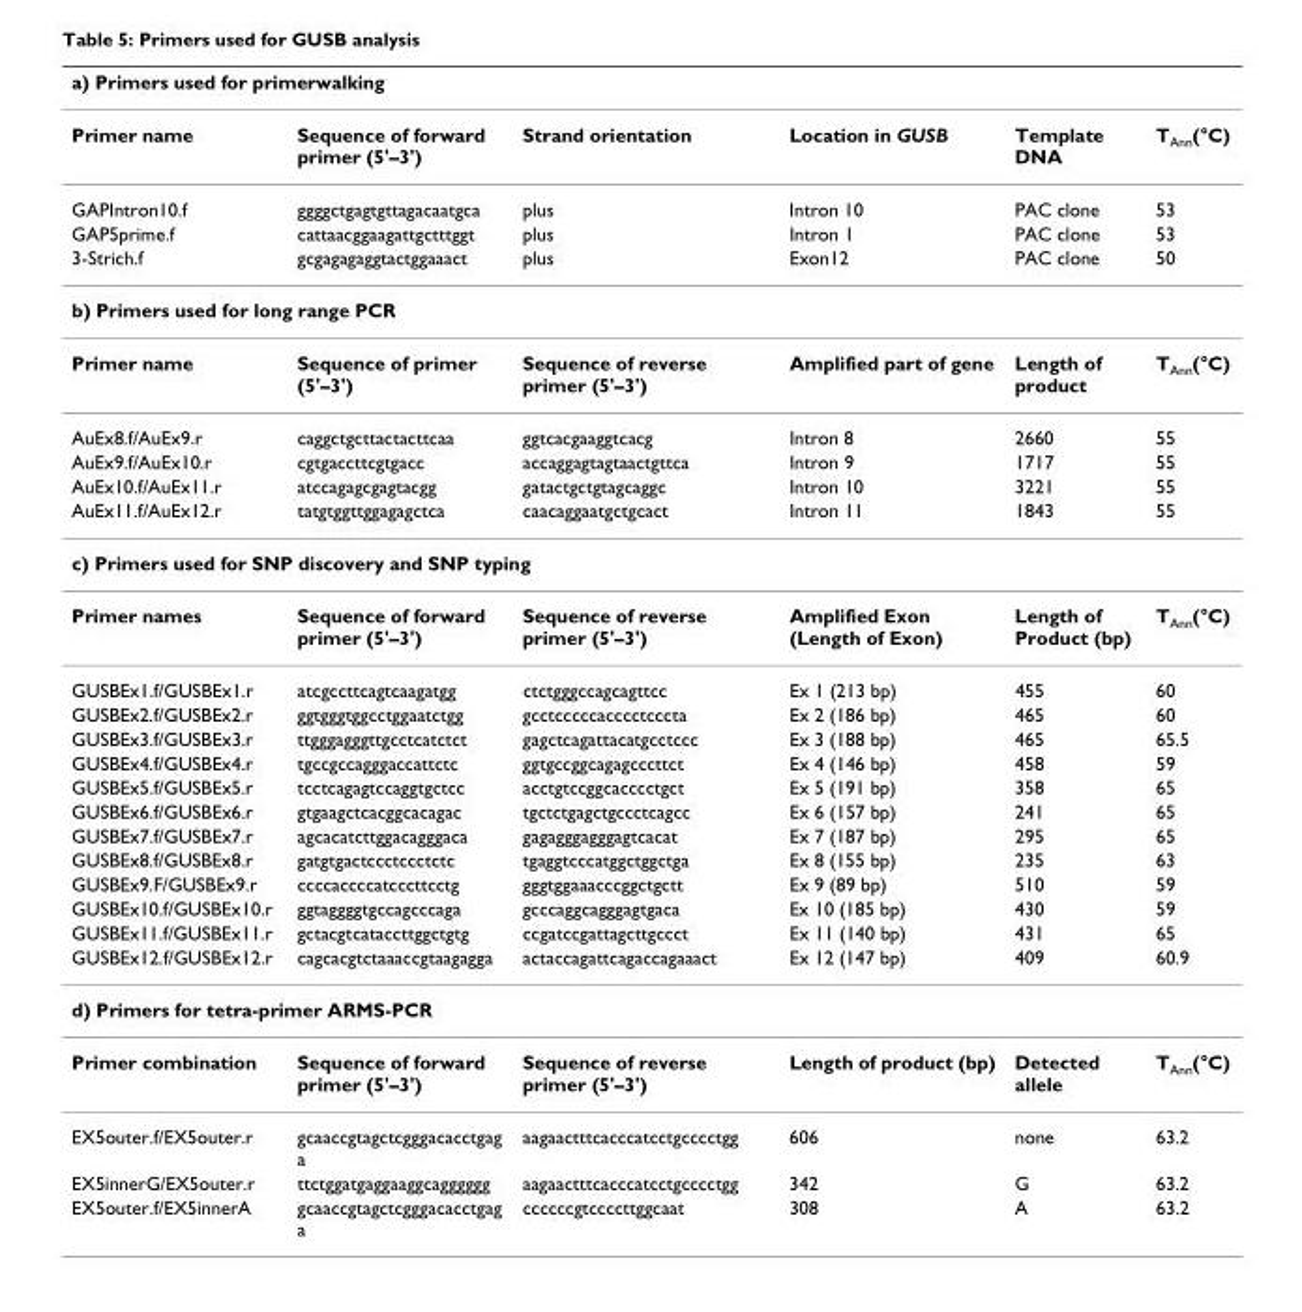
<table><thead><tr><td colspan="6">a) Primers used for primerwalking</td></tr><tr><td>Primer name</td><td>Sequence of forward primer (5&#x27;–3&#x27;)</td><td>Strand orientation</td><td>Location in GUSB</td><td>Template DNA</td><td>TAnn(°C)</td></tr></thead><tbody><tr><td>GAPIntron10.f</td><td>ggggctgagtgttagacaatgca</td><td>plus</td><td>Intron 10</td><td>PAC clone</td><td>53</td></tr><tr><td>GAP5prime.f</td><td>cattaacggaagattgctttggt</td><td>plus</td><td>Intron 1</td><td>PAC clone</td><td>53</td></tr><tr><td>3-Strich.f</td><td>gcgagagaggtactggaaact</td><td>plus</td><td>Exon12</td><td>PAC clone</td><td>50</td></tr><tr><td colspan="6">b) Primers used for long range PCR</td></tr><tr><td>Primer name</td><td>Sequence of primer (5&#x27;–3&#x27;)</td><td>Sequence of reverse primer (5&#x27;–3&#x27;)</td><td>Amplified part of gene</td><td>Length of product</td><td>TAnn(°C)</td></tr><tr><td>AuEx8.f/AuEx9.r</td><td>caggctgcttactacttcaa</td><td>ggtcacgaaggtcacg</td><td>Intron 8</td><td>2660</td><td>55</td></tr><tr><td>AuEx9.f/AuEx10.r</td><td>cgtgaccttcgtgacc</td><td>accaggagtagtaactgttca</td><td>Intron 9</td><td>1717</td><td>55</td></tr><tr><td>AuEx10.f/AuEx11.r</td><td>atccagagcgagtacgg</td><td>gatactgctgtagcaggc</td><td>Intron 10</td><td>3221</td><td>55</td></tr><tr><td>AuEx11.f/AuEx12.r</td><td>tatgtggttggagagctca</td><td>caacaggaatgctgcact</td><td>Intron 11</td><td>1843</td><td>55</td></tr><tr><td colspan="6">c) Primers used for SNP discovery and SNP typing</td></tr><tr><td>Primer names</td><td>Sequence of forward primer (5&#x27;–3&#x27;)</td><td>Sequence of reverse primer (5&#x27;–3&#x27;)</td><td>Amplified Exon (Length of Exon)</td><td>Length of Product (bp)</td><td>TAnn(°C)</td></tr><tr><td>GUSBEx1.f/GUSBEx1.r</td><td>atcgccttcagtcaagatgg</td><td>ctctgggccagcagttcc</td><td>Ex 1 (213 bp)</td><td>455</td><td>60</td></tr><tr><td>GUSBEx2.f/GUSBEx2.r</td><td>ggtgggtggcctggaatctgg</td><td>gcctcccccacccctcccta</td><td>Ex 2 (186 bp)</td><td>465</td><td>60</td></tr><tr><td>GUSBEx3.f/GUSBEx3.r</td><td>ttgggagggttgcctcatctct</td><td>gagctcagattacatgcctccc</td><td>Ex 3 (188 bp)</td><td>465</td><td>65.5</td></tr><tr><td>GUSBEx4.f/GUSBEx4.r</td><td>tgccgccagggaccattctc</td><td>ggtgccggcagagcccttct</td><td>Ex 4 (146 bp)</td><td>458</td><td>59</td></tr><tr><td>GUSBEx5.f/GUSBEx5.r</td><td>tcctcagagtccaggtgctcc</td><td>acctgtccggcacccctgct</td><td>Ex 5 (191 bp)</td><td>358</td><td>65</td></tr><tr><td>GUSBEx6.f/GUSBEx6.r</td><td>gtgaagctcacggcacagac</td><td>tgctctgagctgccctcagcc</td><td>Ex 6 (157 bp)</td><td>241</td><td>65</td></tr><tr><td>GUSBEx7.f/GUSBEx7.r</td><td>agcacatcttggacagggaca</td><td>gagagggagggagtcacat</td><td>Ex 7 (187 bp)</td><td>295</td><td>65</td></tr><tr><td>GUSBEx8.f/GUSBEx8.r</td><td>gatgtgactccctccctctc</td><td>tgaggtcccatggctggctga</td><td>Ex 8 (155 bp)</td><td>235</td><td>63</td></tr><tr><td>GUSBEx9.F/GUSBEx9.r</td><td>ccccaccccatcccttcctg</td><td>gggtggaaacccggctgctt</td><td>Ex 9 (89 bp)</td><td>510</td><td>59</td></tr><tr><td>GUSBEx10.f/GUSBEx10.r</td><td>ggtaggggtgccagcccaga</td><td>gcccaggcagggagtgaca</td><td>Ex 10 (185 bp)</td><td>430</td><td>59</td></tr><tr><td>GUSBEx11.f/GUSBEx11.r</td><td>gctacgtcataccttggctgtg</td><td>ccgatccgattagcttgccct</td><td>Ex 11 (140 bp)</td><td>431</td><td>65</td></tr><tr><td>GUSBEx12.f/GUSBEx12.r</td><td>cagcacgtctaaaccgtaagagga</td><td>actaccagattcagaccagaaact</td><td>Ex 12 (147 bp)</td><td>409</td><td>60.9</td></tr><tr><td colspan="6">d) Primers for tetra-primer ARMS-PCR</td></tr><tr><td>Primer combination</td><td>Sequence of forward primer (5&#x27;–3&#x27;)</td><td>Sequence of reverse primer (5&#x27;–3&#x27;)</td><td>Length of product (bp)</td><td>Detected allele</td><td>TAnn(°C)</td></tr><tr><td>EX5outer.f/EX5outer.r</td><td>gcaaccgtagctcgggacacctgag a</td><td>aagaactttcacccatcctgcccctgg</td><td>606</td><td>none</td><td>63.2</td></tr><tr><td>EX5innerG/EX5outer.r</td><td>ttctggatgaggaaggcagggggg</td><td>aagaactttcacccatcctgcccctgg</td><td>342</td><td>G</td><td>63.2</td></tr><tr><td>EX5outer.f/EX5innerA</td><td>gcaaccgtagctcgggacacctgag a</td><td>ccccccgtccccttggcaat</td><td>308</td><td>A</td><td>63.2</td></tr></tbody></table>